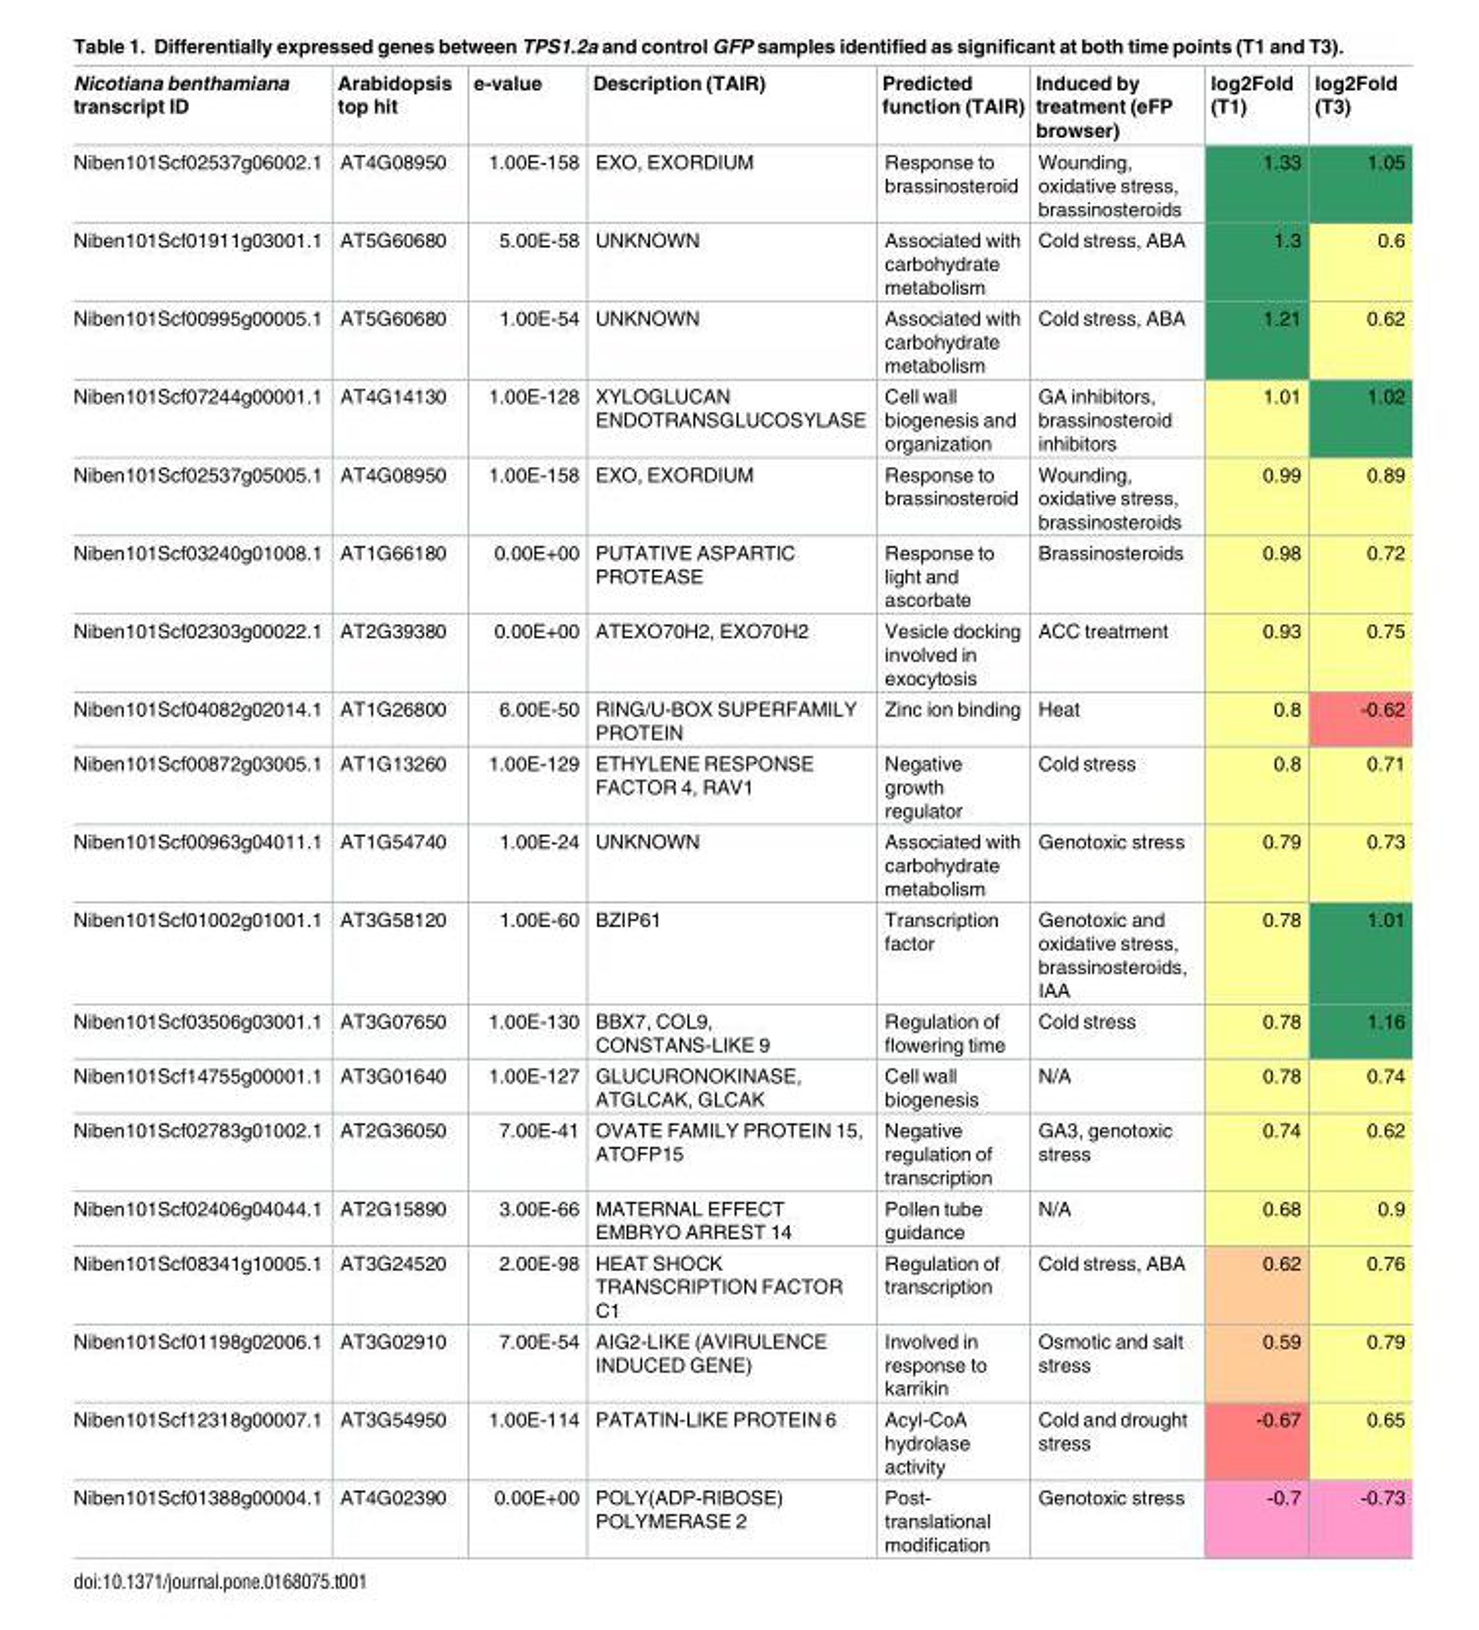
<table><thead><tr><td>Nicotiana benthamiana transcript ID</td><td>Arabidopsis top hit</td><td>e-value</td><td>Description (TAIR)</td><td>Predicted function (TAIR)</td><td>Induced by treatment (eFP browser)</td><td>log2Fold (T1)</td><td>log2Fold (T3)</td></tr></thead><tbody><tr><td>Niben101Scf02537g06002.1</td><td>AT4G08950</td><td>1.00E-158</td><td>EXO, EXORDIUM</td><td>Response to brassinosteroid</td><td>Wounding, oxidative stress, brassinosteroids</td><td>1.33</td><td>1.05</td></tr><tr><td>Niben101Scf01911g03001.1</td><td>AT5G60680</td><td>5.00E-58</td><td>UNKNOWN</td><td>Associated with carbohydrate metabolism</td><td>Cold stress, ABA</td><td>1.3</td><td>0.6</td></tr><tr><td>Niben101Scf00995g00005.1</td><td>AT5G60680</td><td>1.00E-54</td><td>UNKNOWN</td><td>Associated with carbohydrate metabolism</td><td>Cold stress, ABA</td><td>1.21</td><td>0.62</td></tr><tr><td>Niben101Scf07244g00001.1</td><td>AT4G14130</td><td>1.00E-128</td><td>XYLOGLUCAN ENDOTRANSGLUCOSYLASE</td><td>Cell wall biogenesis and organization</td><td>GA inhibitors, brassinosteroid inhibitors</td><td>1.01</td><td>1.02</td></tr><tr><td>Niben101Scf02537g05005.1</td><td>AT4G08950</td><td>1.00E-158</td><td>EXO, EXORDIUM</td><td>Response to brassinosteroid</td><td>Wounding, oxidative stress, brassinosteroids</td><td>0.99</td><td>0.89</td></tr><tr><td>Niben101Scf03240g01008.1</td><td>AT1G66180</td><td>0.00E+00</td><td>PUTATIVE ASPARTIC PROTEASE</td><td>Response to light and ascorbate</td><td>Brassinosteroids</td><td>0.98</td><td>0.72</td></tr><tr><td>Niben101Scf02303g00022.1</td><td>AT2G39380</td><td>0.00E+00</td><td>ATEXO70H2, EXO70H2</td><td>Vesicle docking involved in exocytosis</td><td>ACC treatment</td><td>0.93</td><td>0.75</td></tr><tr><td>Niben101Scf04082g02014.1</td><td>AT1G26800</td><td>6.00E-50</td><td>RING/U-BOX SUPERFAMILY PROTEIN</td><td>Zinc ion binding</td><td>Heat</td><td>0.8</td><td>-0.62</td></tr><tr><td>Niben101Scf00872g03005.1</td><td>AT1G13260</td><td>1.00E-129</td><td>ETHYLENE RESPONSE FACTOR 4, RAV1</td><td>Negative growth regulator</td><td>Cold stress</td><td>0.8</td><td>0.71</td></tr><tr><td>Niben101Scf00963g04011.1</td><td>AT1G54740</td><td>1.00E-24</td><td>UNKNOWN</td><td>Associated with carbohydrate metabolism</td><td>Genotoxic stress</td><td>0.79</td><td>0.73</td></tr><tr><td>Niben101Scf01002g01001.1</td><td>AT3G58120</td><td>1.00E-60</td><td>BZIP61</td><td>Transcription factor</td><td>Genotoxic and oxidative stress, brassinosteroids, IAA</td><td>0.78</td><td>1.01</td></tr><tr><td>Niben101Scf03506g03001.1</td><td>AT3G07650</td><td>1.00E-130</td><td>BBX7, COL9, CONSTANS-LIKE 9</td><td>Regulation of flowering time</td><td>Cold stress</td><td>0.78</td><td>1.16</td></tr><tr><td>Niben101Scf14755g00001.1</td><td>AT3G01640</td><td>1.00E-127</td><td>GLUCURONOKINASE, ATGLCAK, GLCAK</td><td>Cell wall biogenesis</td><td>N/A</td><td>0.78</td><td>0.74</td></tr><tr><td>Niben101Scf02783g01002.1</td><td>AT2G36050</td><td>7.00E-41</td><td>OVATE FAMILY PROTEIN 15, ATOFP15</td><td>Negative regulation of transcription</td><td>GA3, genotoxic stress</td><td>0.74</td><td>0.62</td></tr><tr><td>Niben101Scf02406g04044.1</td><td>AT2G15890</td><td>3.00E-66</td><td>MATERNAL EFFECT EMBRYO ARREST 14</td><td>Pollen tube guidance</td><td>N/A</td><td>0.68</td><td>0.9</td></tr><tr><td>Niben101Scf08341g10005.1</td><td>AT3G24520</td><td>2.00E-98</td><td>HEAT SHOCK TRANSCRIPTION FACTOR C1</td><td>Regulation of transcription</td><td>Cold stress, ABA</td><td>0.62</td><td>0.76</td></tr><tr><td>Niben101Scf01198g02006.1</td><td>AT3G02910</td><td>7.00E-54</td><td>AIG2-LIKE (AVIRULENCE INDUCED GENE)</td><td>Involved in response to karrikin</td><td>Osmotic and salt stress</td><td>0.59</td><td>0.79</td></tr><tr><td>Niben101Scf12318g00007.1</td><td>AT3G54950</td><td>1.00E-114</td><td>PATATIN-LIKE PROTEIN 6</td><td>Acyl-CoA hydrolase activity</td><td>Cold and drought stress</td><td>-0.67</td><td>0.65</td></tr><tr><td>Niben101Scf01388g00004.1</td><td>AT4G02390</td><td>0.00E+00</td><td>POLY(ADP-RIBOSE) POLYMERASE 2</td><td>Post- translational modification</td><td>Genotoxic stress</td><td>-0.7</td><td>-0.73</td></tr></tbody></table>